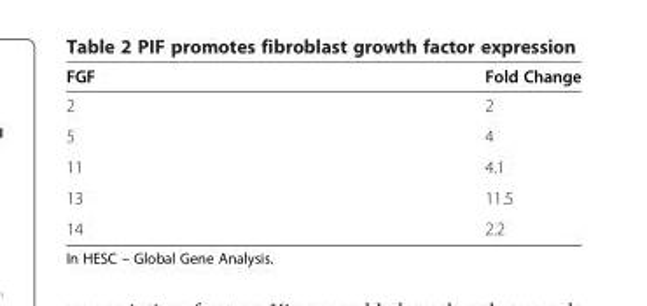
<table><thead><tr><td>FGF</td><td>Fold Change</td></tr></thead><tbody><tr><td>2</td><td>2</td></tr><tr><td>5</td><td>4</td></tr><tr><td>11</td><td>4.1</td></tr><tr><td>13</td><td>11.5</td></tr><tr><td>14</td><td>2.2</td></tr></tbody></table>